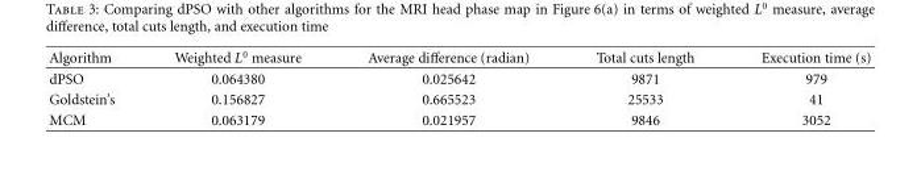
<table><thead><tr><td>Algorithm</td><td>Weighted L<sup>0</sup> measure</td><td>Average difference (radian)</td><td>Total cuts length</td><td>Execution time (s)</td></tr></thead><tbody><tr><td>dPSO</td><td>0.064380</td><td>0.025642</td><td>9871</td><td>979</td></tr><tr><td>Goldstein’s</td><td>0.156827</td><td>0.665523</td><td>25533</td><td>41</td></tr><tr><td>MCM</td><td>0.063179</td><td>0.021957</td><td>9846</td><td>3052</td></tr></tbody></table>